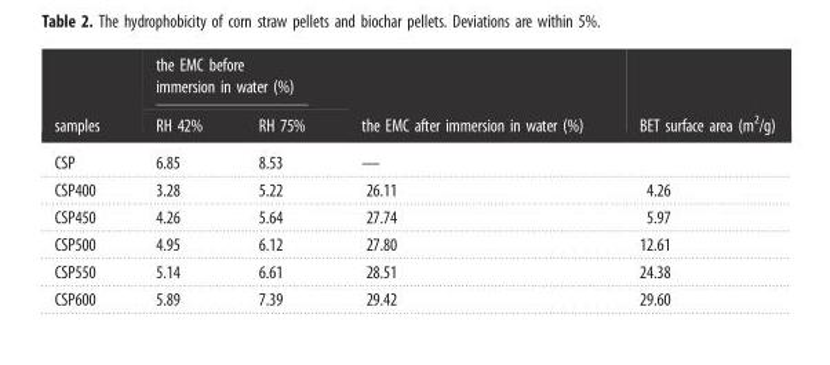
<table><thead><tr><td rowspan="2">samples</td><td colspan="2">the EMC before immersion in water (%)</td><td rowspan="2">the EMC after immersion in water (%)</td><td rowspan="2">BET surface area (m<sup>2</sup>/g)</td></tr><tr><td>RH 42%</td><td>RH 75%</td></tr></thead><tbody><tr><td>CSP</td><td>6.85</td><td>8.53</td><td>—</td><td></td></tr><tr><td>CSP400</td><td>3.28</td><td>5.22</td><td>26.11</td><td>4.26</td></tr><tr><td>CSP450</td><td>4.26</td><td>5.64</td><td>27.74</td><td>5.97</td></tr><tr><td>CSP500</td><td>4.95</td><td>6.12</td><td>27.80</td><td>12.61</td></tr><tr><td>CSP550</td><td>5.14</td><td>6.61</td><td>28.51</td><td>24.38</td></tr><tr><td>CSP600</td><td>5.89</td><td>7.39</td><td>29.42</td><td>29.60</td></tr></tbody></table>